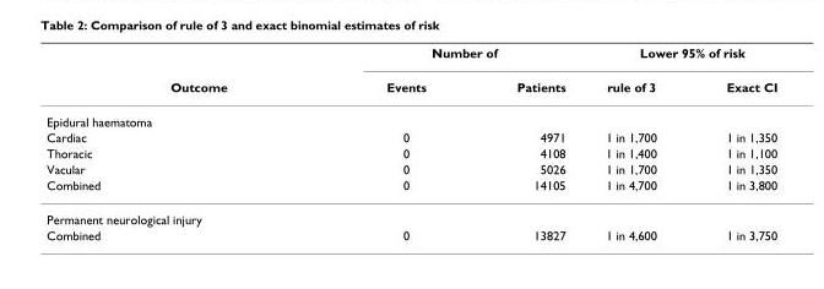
<table><thead><tr><td rowspan="2">Outcome</td><td colspan="2">Number of</td><td colspan="2">Lower 95% of risk</td></tr><tr><td>Events</td><td>Patients</td><td>rule of 3</td><td>Exact CI</td></tr></thead><tbody><tr><td colspan="5">Epidural haematoma</td></tr><tr><td>Cardiac</td><td>0</td><td>4971</td><td>1 in 1,700</td><td>1 in 1,350</td></tr><tr><td>Thoracic</td><td>0</td><td>4108</td><td>1 in 1,400</td><td>1 in 1,100</td></tr><tr><td>Vacular</td><td>0</td><td>5026</td><td>1 in 1,700</td><td>1 in 1,350</td></tr><tr><td>Combined</td><td>0</td><td>14105</td><td>1 in 4,700</td><td>1 in 3,800</td></tr><tr><td colspan="5">Permanent neurological injury</td></tr><tr><td>Combined</td><td>0</td><td>13827</td><td>1 in 4,600</td><td>1 in 3,750</td></tr></tbody></table>